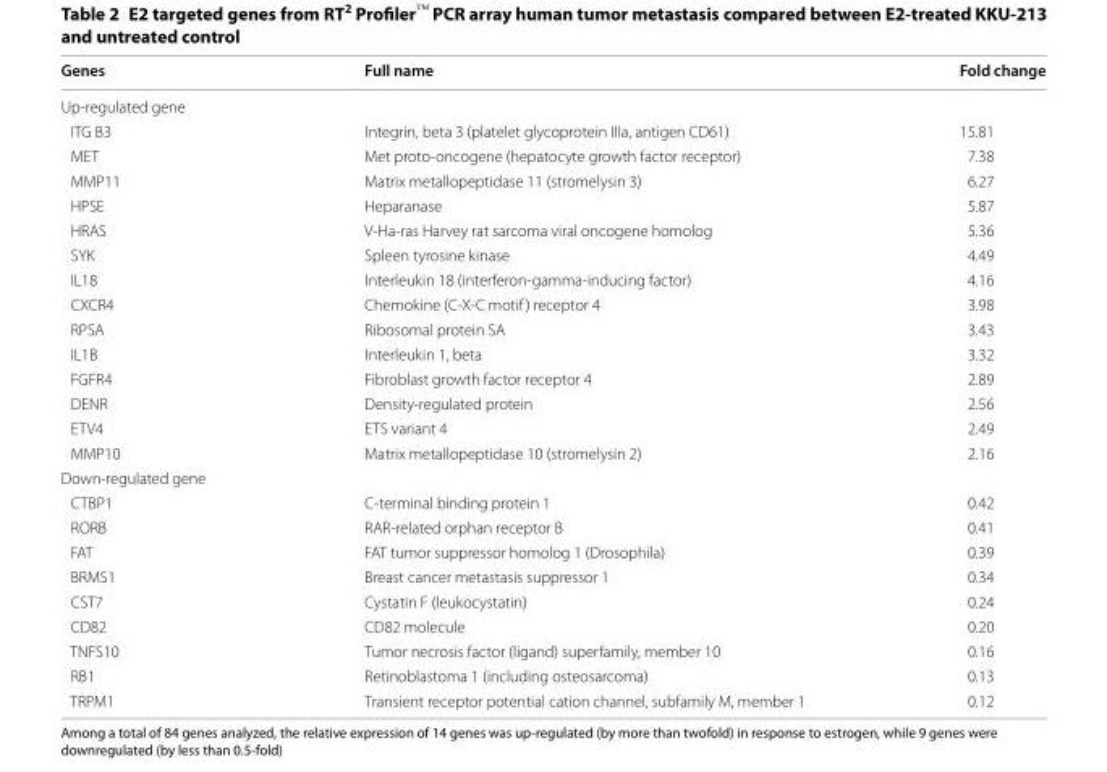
<table><thead><tr><td>Genes</td><td>Full name</td><td>Fold change</td></tr></thead><tbody><tr><td colspan="3">Up-regulated gene</td></tr><tr><td>ITG B3</td><td>Integrin, beta 3 (platelet glycoprotein IIIa, antigen CD61)</td><td>15.81</td></tr><tr><td>MET</td><td>Met proto-oncogene (hepatocyte growth factor receptor)</td><td>7.38</td></tr><tr><td>MMP11</td><td>Matrix metallopeptidase 11 (stromelysin 3)</td><td>6.27</td></tr><tr><td>HPSE</td><td>Heparanase</td><td>5.87</td></tr><tr><td>HRAS</td><td>V-Ha-ras Harvey rat sarcoma viral oncogene homolog</td><td>5.36</td></tr><tr><td>SYK</td><td>Spleen tyrosine kinase</td><td>4.49</td></tr><tr><td>IL18</td><td>Interleukin 18 (interferon-gamma-inducing factor)</td><td>4.16</td></tr><tr><td>CXCR4</td><td>Chemokine (C-X-C motif) receptor 4</td><td>3.98</td></tr><tr><td>RPSA</td><td>Ribosomal protein SA</td><td>3.43</td></tr><tr><td>IL1B</td><td>Interleukin 1, beta</td><td>3.32</td></tr><tr><td>FGFR4</td><td>Fibroblast growth factor receptor 4</td><td>2.89</td></tr><tr><td>DENR</td><td>Density-regulated protein</td><td>2.56</td></tr><tr><td>ETV4</td><td>ETS variant 4</td><td>2.49</td></tr><tr><td>MMP10</td><td>Matrix metallopeptidase 10 (stromelysin 2)</td><td>2.16</td></tr><tr><td colspan="3">Down-regulated gene</td></tr><tr><td>CTBP1</td><td>C-terminal binding protein 1</td><td>0.42</td></tr><tr><td>RORB</td><td>RAR-related orphan receptor B</td><td>0.41</td></tr><tr><td>FAT</td><td>FAT tumor suppressor homolog 1 (Drosophila)</td><td>0.39</td></tr><tr><td>BRMS1</td><td>Breast cancer metastasis suppressor 1</td><td>0.34</td></tr><tr><td>CST7</td><td>Cystatin F (leukocystatin)</td><td>0.24</td></tr><tr><td>CD82</td><td>CD82 molecule</td><td>0.20</td></tr><tr><td>TNFS10</td><td>Tumor necrosis factor (ligand) superfamily, member 10</td><td>0.16</td></tr><tr><td>RB1</td><td>Retinoblastoma 1 (including osteosarcoma)</td><td>0.13</td></tr><tr><td>TRPM1</td><td>Transient receptor potential cation channel, subfamily M, member 1</td><td>0.12</td></tr></tbody></table>